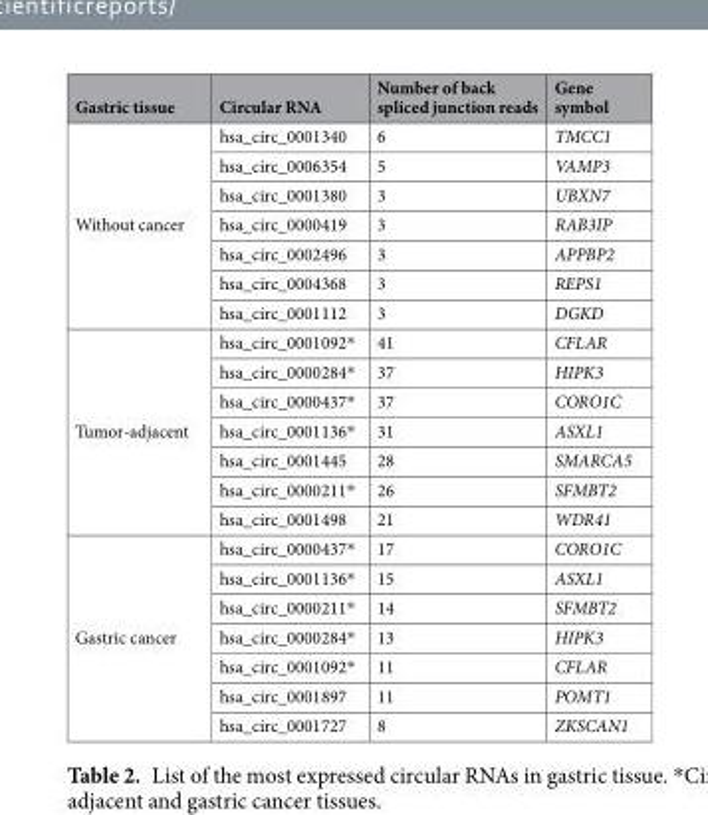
<table><thead><tr><td>Gastric tissue</td><td>Circular RNA</td><td>Number of back spliced junction reads</td><td>Gene symbol</td></tr></thead><tbody><tr><td rowspan="7">Without cancer</td><td>hsa_circ_0001340</td><td>6</td><td>TMCC1</td></tr><tr><td>hsa_circ_0006354</td><td>5</td><td>VAMP3</td></tr><tr><td>hsa_circ_0001380</td><td>3</td><td>UBXN7</td></tr><tr><td>hsa_circ_0000419</td><td>3</td><td>RAB3IP</td></tr><tr><td>hsa_circ_0002496</td><td>3</td><td>APPBP2</td></tr><tr><td>hsa_circ_0004368</td><td>3</td><td>REPS1</td></tr><tr><td>hsa_circ_0001112</td><td>3</td><td>DGKD</td></tr><tr><td rowspan="7">Tumor-adjacent</td><td>hsa_circ_0001092*</td><td>41</td><td>CFLAR</td></tr><tr><td>hsa_circ_0000284*</td><td>37</td><td>HIPK3</td></tr><tr><td>hsa_circ_0000437*</td><td>37</td><td>CORO1C</td></tr><tr><td>hsa_circ_0001136*</td><td>31</td><td>ASXL1</td></tr><tr><td>hsa_circ_0001445</td><td>28</td><td>SMARCA5</td></tr><tr><td>hsa_circ_0000211*</td><td>26</td><td>SFMBT2</td></tr><tr><td>hsa_circ_0001498</td><td>21</td><td>WDR41</td></tr><tr><td rowspan="7">Gastric cancer</td><td>hsa_circ_0000437*</td><td>17</td><td>CORO1C</td></tr><tr><td>hsa_circ_0001136*</td><td>15</td><td>ASXL1</td></tr><tr><td>hsa_circ_0000211*</td><td>14</td><td>SFMBT2</td></tr><tr><td>hsa_circ_0000284*</td><td>13</td><td>HIPK3</td></tr><tr><td>hsa_circ_0001092*</td><td>11</td><td>CFLAR</td></tr><tr><td>hsa_circ_0001897</td><td>11</td><td>POMT1</td></tr><tr><td>hsa_circ_0001727</td><td>8</td><td>ZKSCAN1</td></tr></tbody></table>